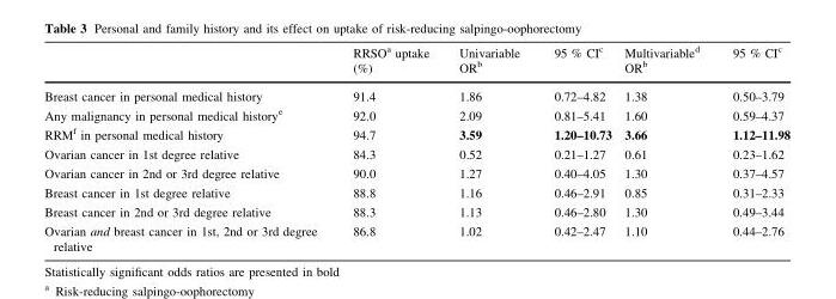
<table><thead><tr><td></td><td>RRSO<sup>a</sup> uptake (%)</td><td>Univariable OR<sup>b</sup></td><td>95 % CI<sup>c</sup></td><td>Multivariable<sup>d</sup> OR<sup>b</sup></td><td>95 % CI<sup>c</sup></td></tr></thead><tbody><tr><td>Breast cancer in personal medical history</td><td>91.4</td><td>1.86</td><td>0.72–4.82</td><td>1.38</td><td>0.50–3.79</td></tr><tr><td>Any malignancy in personal medical history<sup>e</sup></td><td>92.0</td><td>2.09</td><td>0.81–5.41</td><td>1.60</td><td>0.59–4.37</td></tr><tr><td>RRM<sup>f</sup> in personal medical history</td><td>94.7</td><td>3.59</td><td>1.20–10.73</td><td>3.66</td><td>1.12–11.98</td></tr><tr><td>Ovarian cancer in 1st degree relative</td><td>84.3</td><td>0.52</td><td>0.21–1.27</td><td>0.61</td><td>0.23–1.62</td></tr><tr><td>Ovarian cancer in 2nd or 3rd degree relative</td><td>90.0</td><td>1.27</td><td>0.40–4.05</td><td>1.30</td><td>0.37–4.57</td></tr><tr><td>Breast cancer in 1st degree relative</td><td>88.8</td><td>1.16</td><td>0.46–2.91</td><td>0.85</td><td>0.31–2.33</td></tr><tr><td>Breast cancer in 2nd or 3rd degree relative</td><td>88.3</td><td>1.13</td><td>0.46–2.80</td><td>1.30</td><td>0.49–3.44</td></tr><tr><td>Ovarian and breast cancer in 1st, 2nd or 3rd degree relative</td><td>86.8</td><td>1.02</td><td>0.42–2.47</td><td>1.10</td><td>0.44–2.76</td></tr></tbody></table>